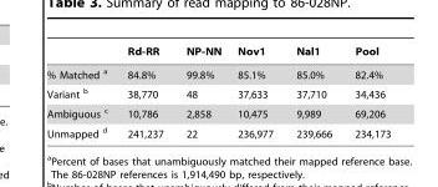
<table><thead><tr><td></td><td>Rd-RR</td><td>NP-NN</td><td>Nov1</td><td>Nal1</td><td>Pool</td></tr></thead><tbody><tr><td>% Matched a</td><td>84.8%</td><td>99.8%</td><td>85.1%</td><td>85.0%</td><td>82.4%</td></tr><tr><td>Variant b</td><td>38,770</td><td>48</td><td>37,633</td><td>37,710</td><td>34,436</td></tr><tr><td>Ambiguous c</td><td>10,786</td><td>2,858</td><td>10,475</td><td>9,989</td><td>69,206</td></tr><tr><td>Unmapped d</td><td>241,237</td><td>22</td><td>236,977</td><td>239,666</td><td>234,173</td></tr></tbody></table>